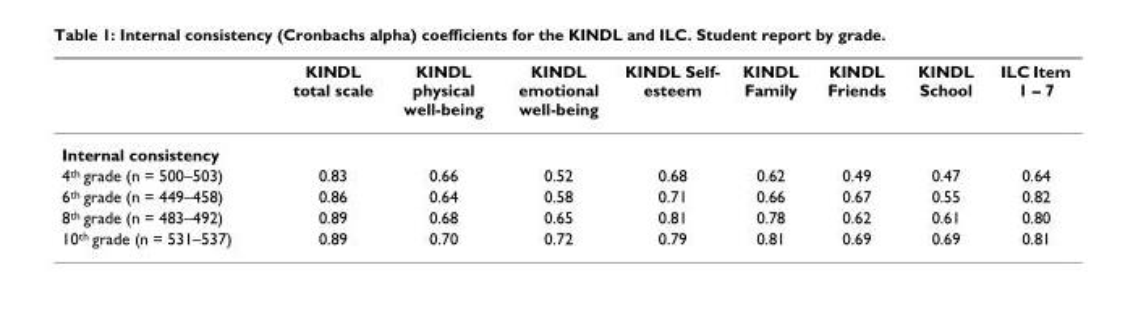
<table><thead><tr><td></td><td>KINDL total scale</td><td>KINDL physical well-being</td><td>KINDL emotional well-being</td><td>KINDL Self- esteem</td><td>KINDL Family</td><td>KINDL Friends</td><td>KINDL School</td><td>ILC Item 1 – 7</td></tr></thead><tbody><tr><td colspan="9">Internal consistency</td></tr><tr><td>4<sup>th</sup> grade (n = 500–503)</td><td>0.83</td><td>0.66</td><td>0.52</td><td>0.68</td><td>0.62</td><td>0.49</td><td>0.47</td><td>0.64</td></tr><tr><td>6<sup>th</sup> grade (n = 449–458)</td><td>0.86</td><td>0.64</td><td>0.58</td><td>0.71</td><td>0.66</td><td>0.67</td><td>0.55</td><td>0.82</td></tr><tr><td>8<sup>th</sup> grade (n = 483–492)</td><td>0.89</td><td>0.68</td><td>0.65</td><td>0.81</td><td>0.78</td><td>0.62</td><td>0.61</td><td>0.80</td></tr><tr><td>10<sup>th</sup> grade (n = 531–537)</td><td>0.89</td><td>0.70</td><td>0.72</td><td>0.79</td><td>0.81</td><td>0.69</td><td>0.69</td><td>0.81</td></tr></tbody></table>